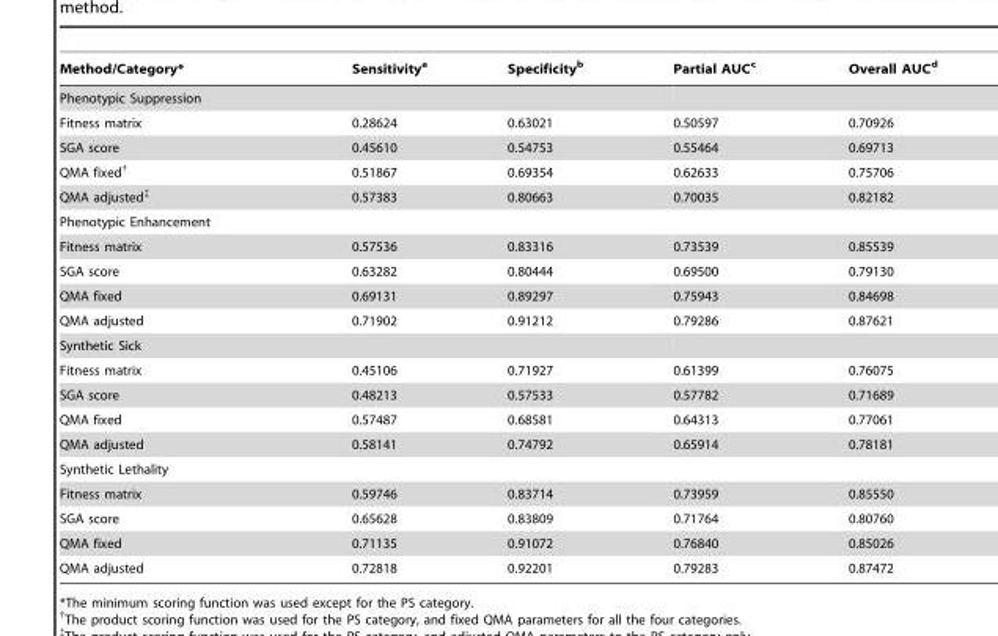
<table><thead><tr><td>Method/Category*</td><td>Sensitivity<sup>a</sup></td><td>Specificity<sup>b</sup></td><td>Partial AUC<sup>c</sup></td><td>Overall AUC<sup>d</sup></td></tr></thead><tbody><tr><td colspan="5">Phenotypic Suppression</td></tr><tr><td>Fitness matrix</td><td>0.28624</td><td>0.63021</td><td>0.50597</td><td>0.70926</td></tr><tr><td>SGA score</td><td>0.45610</td><td>0.54753</td><td>0.55464</td><td>0.69713</td></tr><tr><td>QMA fixed†</td><td>0.51867</td><td>0.69354</td><td>0.62633</td><td>0.75706</td></tr><tr><td>QMA adjusted‡</td><td>0.57383</td><td>0.80663</td><td>0.70035</td><td>0.82182</td></tr><tr><td colspan="5">Phenotypic Enhancement</td></tr><tr><td>Fitness matrix</td><td>0.57536</td><td>0.83316</td><td>0.73539</td><td>0.85539</td></tr><tr><td>SGA score</td><td>0.63282</td><td>0.80444</td><td>0.69500</td><td>0.79130</td></tr><tr><td>QMA fixed</td><td>0.69131</td><td>0.89297</td><td>0.75943</td><td>0.84698</td></tr><tr><td>QMA adjusted</td><td>0.71902</td><td>0.91212</td><td>0.79286</td><td>0.87621</td></tr><tr><td colspan="5">Synthetic Sick</td></tr><tr><td>Fitness matrix</td><td>0.45106</td><td>0.71927</td><td>0.61399</td><td>0.76075</td></tr><tr><td>SGA score</td><td>0.48213</td><td>0.57533</td><td>0.57782</td><td>0.71689</td></tr><tr><td>QMA fixed</td><td>0.57487</td><td>0.68581</td><td>0.64313</td><td>0.77061</td></tr><tr><td>QMA adjusted</td><td>0.58141</td><td>0.74792</td><td>0.65914</td><td>0.78181</td></tr><tr><td colspan="5">Synthetic Lethality</td></tr><tr><td>Fitness matrix</td><td>0.59746</td><td>0.83714</td><td>0.73959</td><td>0.85550</td></tr><tr><td>SGA score</td><td>0.65628</td><td>0.83809</td><td>0.71764</td><td>0.80760</td></tr><tr><td>QMA fixed</td><td>0.71135</td><td>0.91072</td><td>0.76840</td><td>0.85026</td></tr><tr><td>QMA adjusted</td><td>0.72818</td><td>0.92201</td><td>0.79283</td><td>0.87472</td></tr></tbody></table>